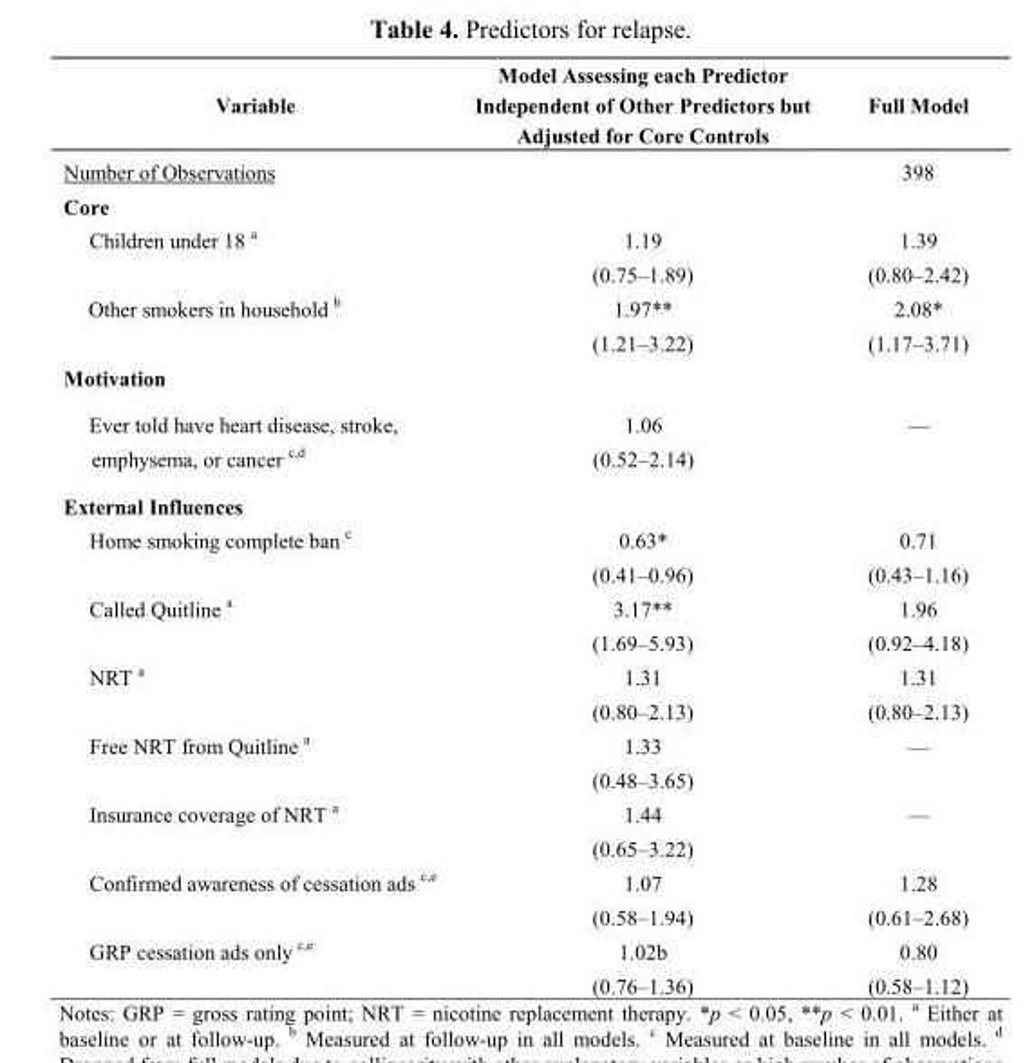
<table><thead><tr><td>Variable</td><td>Model Assessing each Predictor Independent of Other Predictors but Adjusted for Core Controls</td><td>Full Model</td></tr></thead><tbody><tr><td>Number of Observations</td><td></td><td>398</td></tr><tr><td colspan="3">Core</td></tr><tr><td>Children under 18 a</td><td>1.19 (0.75–1.89)</td><td>1.39 (0.80–2.42)</td></tr><tr><td>Other smokers in household b</td><td>1.97** (1.21–3.22)</td><td>2.08* (1.17–3.71)</td></tr><tr><td colspan="3">Motivation</td></tr><tr><td>Ever told have heart disease, stroke, emphysema, or cancer c,d</td><td>1.06 (0.52–2.14)</td><td>—</td></tr><tr><td colspan="3">External Influences</td></tr><tr><td>Home smoking complete ban c</td><td>0.63* (0.41–0.96)</td><td>0.71 (0.43–1.16)</td></tr><tr><td>Called Quitline a</td><td>3.17** (1.69–5.93)</td><td>1.96 (0.92–4.18)</td></tr><tr><td>NRT a</td><td>1.31 (0.80–2.13)</td><td>1.31 (0.80–2.13)</td></tr><tr><td>Free NRT from Quitline a</td><td>1.33 (0.48–3.65)</td><td>—</td></tr><tr><td>Insurance coverage of NRT a</td><td>1.44 (0.65–3.22)</td><td>—</td></tr><tr><td>Confirmed awareness of cessation ads c,e</td><td>1.07 (0.58–1.94)</td><td>1.28 (0.61–2.68)</td></tr><tr><td>GRP cessation ads only c,e</td><td>1.02b (0.76–1.36)</td><td>0.80 (0.58–1.12)</td></tr></tbody></table>